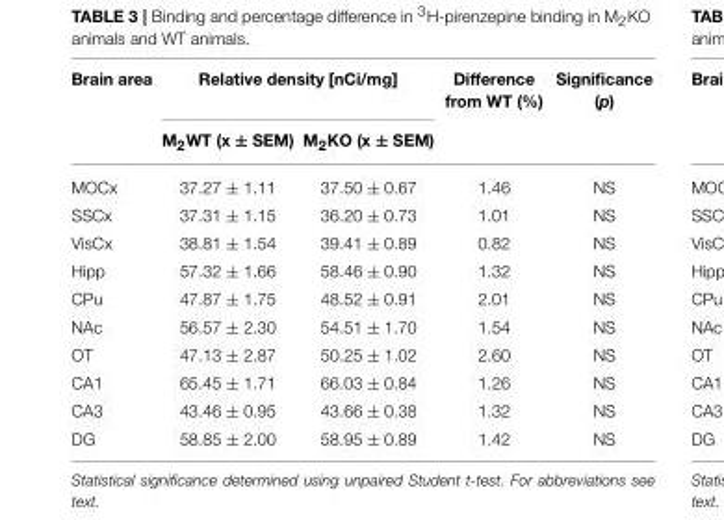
<table><thead><tr><td rowspan="2">Brain area</td><td colspan="2">Relative density [nCi/mg]</td><td rowspan="2">Difference from WT (%)</td><td rowspan="2">Significance (p)</td></tr><tr><td>M<sub>2</sub>WT (x ± SEM)</td><td>M<sub>2</sub>KO (x ± SEM)</td></tr></thead><tbody><tr><td>MOCx</td><td>37.27 ± 1.11</td><td>37.50 ± 0.67</td><td>1.46</td><td>NS</td></tr><tr><td>SSCx</td><td>37.31 ± 1.15</td><td>36.20 ± 0.73</td><td>1.01</td><td>NS</td></tr><tr><td>VisCx</td><td>38.81 ± 1.54</td><td>39.41 ± 0.89</td><td>0.82</td><td>NS</td></tr><tr><td>Hipp</td><td>57.32 ± 1.66</td><td>58.46 ± 0.90</td><td>1.32</td><td>NS</td></tr><tr><td>CPu</td><td>47.87 ± 1.75</td><td>48.52 ± 0.91</td><td>2.01</td><td>NS</td></tr><tr><td>NAc</td><td>56.57 ± 2.30</td><td>54.51 ± 1.70</td><td>1.54</td><td>NS</td></tr><tr><td>OT</td><td>47.13 ± 2.87</td><td>50.25 ± 1.02</td><td>2.60</td><td>NS</td></tr><tr><td>CA1</td><td>65.45 ± 1.71</td><td>66.03 ± 0.84</td><td>1.26</td><td>NS</td></tr><tr><td>CA3</td><td>43.46 ± 0.95</td><td>43.66 ± 0.38</td><td>1.32</td><td>NS</td></tr><tr><td>DG</td><td>58.85 ± 2.00</td><td>58.95 ± 0.89</td><td>1.42</td><td>NS</td></tr></tbody></table>